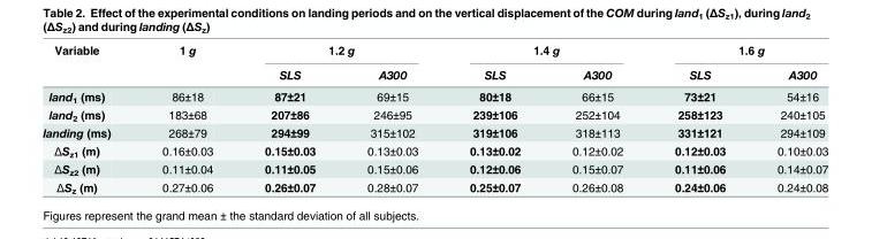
<table><thead><tr><td rowspan="2">Variable</td><td rowspan="2">1 g</td><td colspan="2">1.2 g</td><td colspan="2">1.4 g</td><td colspan="2">1.6 g</td></tr><tr><td>SLS</td><td>A300</td><td>SLS</td><td>A300</td><td>SLS</td><td>A300</td></tr></thead><tbody><tr><td>land<sub>1</sub> (ms)</td><td>86±18</td><td>87±21</td><td>69±15</td><td>80±18</td><td>66±15</td><td>73±21</td><td>54±16</td></tr><tr><td>land<sub>2</sub> (ms)</td><td>183±68</td><td>207±86</td><td>246±95</td><td>239±106</td><td>252±104</td><td>258±123</td><td>240±105</td></tr><tr><td>landing (ms)</td><td>268±79</td><td>294±99</td><td>315±102</td><td>319±106</td><td>318±113</td><td>331±121</td><td>294±109</td></tr><tr><td>ΔS<sub>z1</sub> (m)</td><td>0.16±0.03</td><td>0.15±0.03</td><td>0.13±0.03</td><td>0.13±0.02</td><td>0.12±0.02</td><td>0.12±0.03</td><td>0.10±0.03</td></tr><tr><td>ΔS<sub>z2</sub> (m)</td><td>0.11±0.04</td><td>0.11±0.05</td><td>0.15±0.06</td><td>0.12±0.06</td><td>0.15±0.07</td><td>0.11±0.06</td><td>0.14±0.07</td></tr><tr><td>ΔS<sub>z</sub> (m)</td><td>0.27±0.06</td><td>0.26±0.07</td><td>0.28±0.07</td><td>0.25±0.07</td><td>0.26±0.08</td><td>0.24±0.06</td><td>0.24±0.08</td></tr></tbody></table>